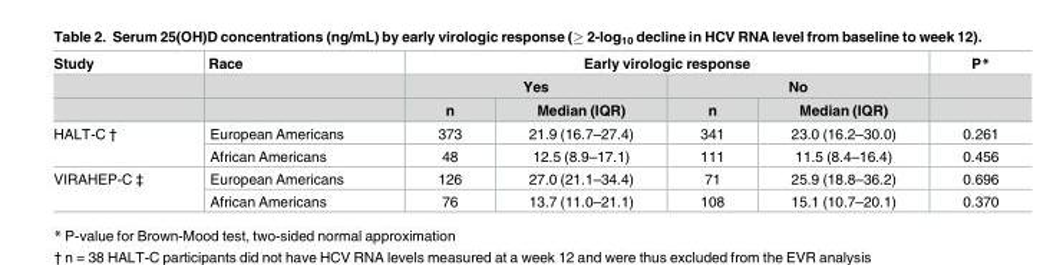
<table><thead><tr><td rowspan="3">Study</td><td rowspan="3">Race</td><td colspan="4">Early virologic response</td><td rowspan="3">P*</td></tr><tr><td colspan="2">Yes</td><td colspan="2">No</td></tr><tr><td>n</td><td>Median (IQR)</td><td>n</td><td>Median (IQR)</td></tr></thead><tbody><tr><td rowspan="2">HALT-C †</td><td>European Americans</td><td>373</td><td>21.9 (16.7–27.4)</td><td>341</td><td>23.0 (16.2–30.0)</td><td>0.261</td></tr><tr><td>African Americans</td><td>48</td><td>12.5 (8.9–17.1)</td><td>111</td><td>11.5 (8.4–16.4)</td><td>0.456</td></tr><tr><td rowspan="2">VIRAHEP-C ‡</td><td>European Americans</td><td>126</td><td>27.0 (21.1–34.4)</td><td>71</td><td>25.9 (18.8–36.2)</td><td>0.696</td></tr><tr><td>African Americans</td><td>76</td><td>13.7 (11.0–21.1)</td><td>108</td><td>15.1 (10.7–20.1)</td><td>0.370</td></tr></tbody></table>